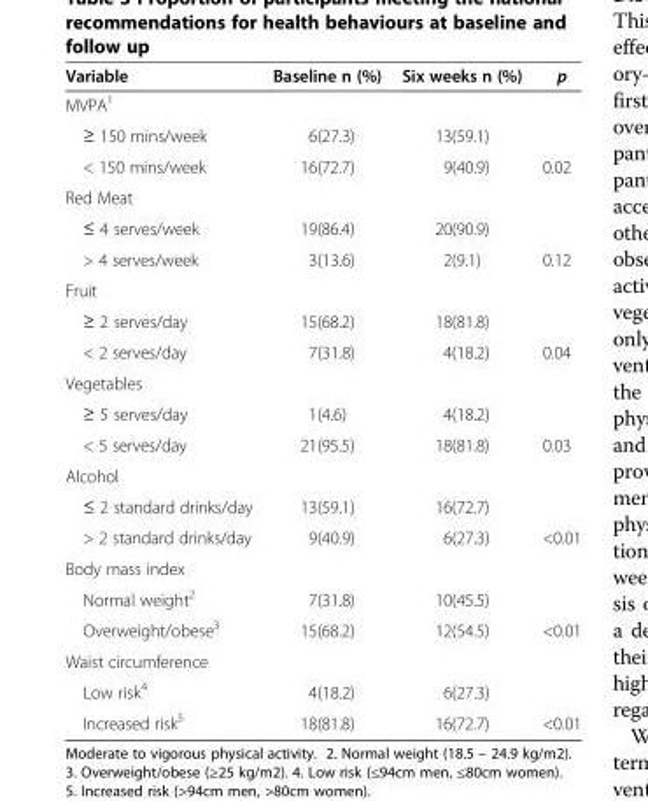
<table><thead><tr><td>Variable</td><td>Baseline n (%)</td><td>Six weeks n (%)</td><td>p</td></tr></thead><tbody><tr><td colspan="4">MVPA<sup>1</sup></td></tr><tr><td>≥ 150 mins/week</td><td>6(27.3)</td><td>13(59.1)</td><td></td></tr><tr><td>&lt; 150 mins/week</td><td>16(72.7)</td><td>9(40.9)</td><td>0.02</td></tr><tr><td colspan="4">Red Meat</td></tr><tr><td>≤ 4 serves/week</td><td>19(86.4)</td><td>20(90.9)</td><td></td></tr><tr><td>&gt; 4 serves/week</td><td>3(13.6)</td><td>2(9.1)</td><td>0.12</td></tr><tr><td colspan="4">Fruit</td></tr><tr><td>≥ 2 serves/day</td><td>15(68.2)</td><td>18(81.8)</td><td></td></tr><tr><td>&lt; 2 serves/day</td><td>7(31.8)</td><td>4(18.2)</td><td>0.04</td></tr><tr><td colspan="4">Vegetables</td></tr><tr><td>≥ 5 serves/day</td><td>1(4.6)</td><td>4(18.2)</td><td></td></tr><tr><td>&lt; 5 serves/day</td><td>21(95.5)</td><td>18(81.8)</td><td>0.03</td></tr><tr><td colspan="4">Alcohol</td></tr><tr><td>≤ 2 standard drinks/day</td><td>13(59.1)</td><td>16(72.7)</td><td></td></tr><tr><td>&gt; 2 standard drinks/day</td><td>9(40.9)</td><td>6(27.3)</td><td>&lt;0.01</td></tr><tr><td colspan="4">Body mass index</td></tr><tr><td>Normal weight<sup>2</sup></td><td>7(31.8)</td><td>10(45.5)</td><td></td></tr><tr><td>Overweight/obese<sup>3</sup></td><td>15(68.2)</td><td>12(54.5)</td><td>&lt;0.01</td></tr><tr><td colspan="4">Waist circumference</td></tr><tr><td>Low risk<sup>4</sup></td><td>4(18.2)</td><td>6(27.3)</td><td></td></tr><tr><td>Increased risk<sup>5</sup></td><td>18(81.8)</td><td>16(72.7)</td><td>&lt;0.01</td></tr></tbody></table>